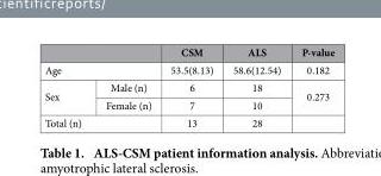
<table><thead><tr><td></td><td></td><td>CSM</td><td>ALS</td><td>P-value</td></tr></thead><tbody><tr><td colspan="2">Age</td><td>53.5(8.13)</td><td>58.6(12.54)</td><td>0.182</td></tr><tr><td rowspan="2">Sex</td><td>Male (n)</td><td>6</td><td>18</td><td rowspan="2">0.273</td></tr><tr><td>Female (n)</td><td>7</td><td>10</td></tr><tr><td colspan="2">Total (n)</td><td>13</td><td>28</td><td></td></tr></tbody></table>